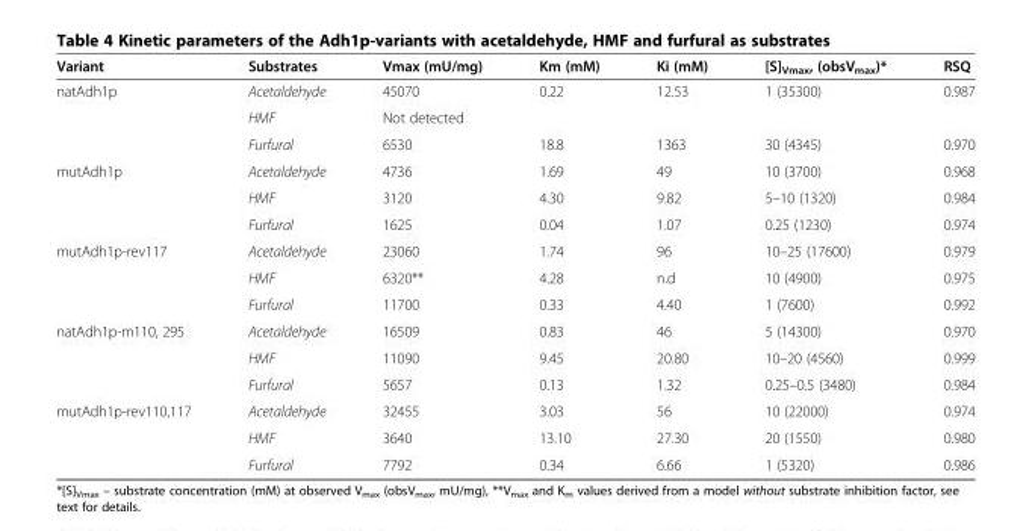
<table><thead><tr><td>Variant</td><td>Substrates</td><td>Vmax (mU/mg)</td><td>Km (mM)</td><td>Ki (mM)</td><td>[S]<sub>Vmax</sub>, (obsV<sub>max</sub>)*</td><td>RSQ</td></tr></thead><tbody><tr><td rowspan="3">natAdh1p</td><td>Acetaldehyde</td><td>45070</td><td>0.22</td><td>12.53</td><td>1 (35300)</td><td>0.987</td></tr><tr><td>HMF</td><td colspan="5">Not detected</td></tr><tr><td>Furfural</td><td>6530</td><td>18.8</td><td>1363</td><td>30 (4345)</td><td>0.970</td></tr><tr><td rowspan="3">mutAdh1p</td><td>Acetaldehyde</td><td>4736</td><td>1.69</td><td>49</td><td>10 (3700)</td><td>0.968</td></tr><tr><td>HMF</td><td>3120</td><td>4.30</td><td>9.82</td><td>5–10 (1320)</td><td>0.984</td></tr><tr><td>Furfural</td><td>1625</td><td>0.04</td><td>1.07</td><td>0.25 (1230)</td><td>0.974</td></tr><tr><td rowspan="3">mutAdh1p-rev117</td><td>Acetaldehyde</td><td>23060</td><td>1.74</td><td>96</td><td>10–25 (17600)</td><td>0.979</td></tr><tr><td>HMF</td><td>6320**</td><td>4.28</td><td>n.d</td><td>10 (4900)</td><td>0.975</td></tr><tr><td>Furfural</td><td>11700</td><td>0.33</td><td>4.40</td><td>1 (7600)</td><td>0.992</td></tr><tr><td rowspan="3">natAdh1p-m110, 295</td><td>Acetaldehyde</td><td>16509</td><td>0.83</td><td>46</td><td>5 (14300)</td><td>0.970</td></tr><tr><td>HMF</td><td>11090</td><td>9.45</td><td>20.80</td><td>10–20 (4560)</td><td>0.999</td></tr><tr><td>Furfural</td><td>5657</td><td>0.13</td><td>1.32</td><td>0.25–0.5 (3480)</td><td>0.984</td></tr><tr><td rowspan="3">mutAdh1p-rev110,117</td><td>Acetaldehyde</td><td>32455</td><td>3.03</td><td>56</td><td>10 (22000)</td><td>0.974</td></tr><tr><td>HMF</td><td>3640</td><td>13.10</td><td>27.30</td><td>20 (1550)</td><td>0.980</td></tr><tr><td>Furfural</td><td>7792</td><td>0.34</td><td>6.66</td><td>1 (5320)</td><td>0.986</td></tr></tbody></table>